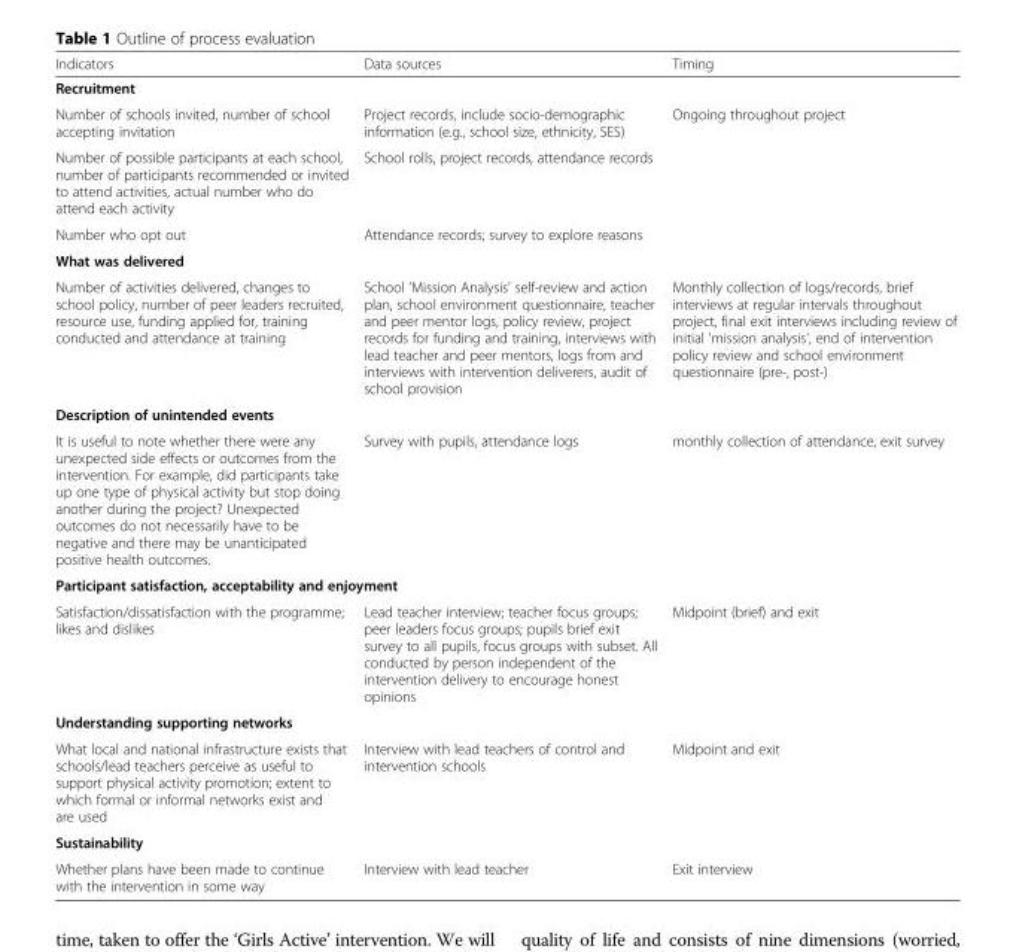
<table><thead><tr><td>Indicators</td><td>Data sources</td><td>Timing</td></tr></thead><tbody><tr><td colspan="3">Recruitment</td></tr><tr><td>Number of schools invited, number of school accepting invitation</td><td>Project records, include socio-demographic information (e.g., school size, ethnicity, SES)</td><td rowspan="3">Ongoing throughout project</td></tr><tr><td>Number of possible participants at each school, number of participants recommended or invited to attend activities, actual number who do attend each activity</td><td>School rolls, project records, attendance records</td></tr><tr><td>Number who opt out</td><td>Attendance records; survey to explore reasons</td></tr><tr><td colspan="3">What was delivered</td></tr><tr><td>Number of activities delivered, changes to school policy, number of peer leaders recruited, resource use, funding applied for, training conducted and attendance at training</td><td>School &#x27;Mission Analysis&#x27; self-review and action plan, school environment questionnaire, teacher and peer mentor logs, policy review, project records for funding and training, interviews with lead teacher and peer mentors, logs from and interviews with intervention deliverers, audit of school provision</td><td>Monthly collection of logs/records, brief interviews at regular intervals throughout project, final exit interviews including review of initial &#x27;mission analysis&#x27;, end of intervention policy review and school environment questionnaire (pre-, post-)</td></tr><tr><td colspan="3">Description of unintended events</td></tr><tr><td>It is useful to note whether there were any unexpected side effects or outcomes from the intervention. For example, did participants take up one type of physical activity but stop doing another during the project? Unexpected outcomes do not necessarily have to be negative and there may be unanticipated positive health outcomes.</td><td>Survey with pupils, attendance logs</td><td>monthly collection of attendance, exit survey</td></tr><tr><td colspan="3">Participant satisfaction, acceptability and enjoyment</td></tr><tr><td>Satisfaction/dissatisfaction with the programme; likes and dislikes</td><td>Lead teacher interview; teacher focus groups; peer leaders focus groups; pupils brief exit survey to all pupils, focus groups with subset. All conducted by person independent of the intervention delivery to encourage honest opinions</td><td>Midpoint (brief) and exit</td></tr><tr><td colspan="3">Understanding supporting networks</td></tr><tr><td>What local and national infrastructure exists that schools/lead teachers perceive as useful to support physical activity promotion; extent to which formal or informal networks exist and are used</td><td>Interview with lead teachers of control and intervention schools</td><td>Midpoint and exit</td></tr><tr><td colspan="3">Sustainability</td></tr><tr><td>Whether plans have been made to continue with the intervention in some way</td><td>Interview with lead teacher</td><td>Exit interview</td></tr></tbody></table>